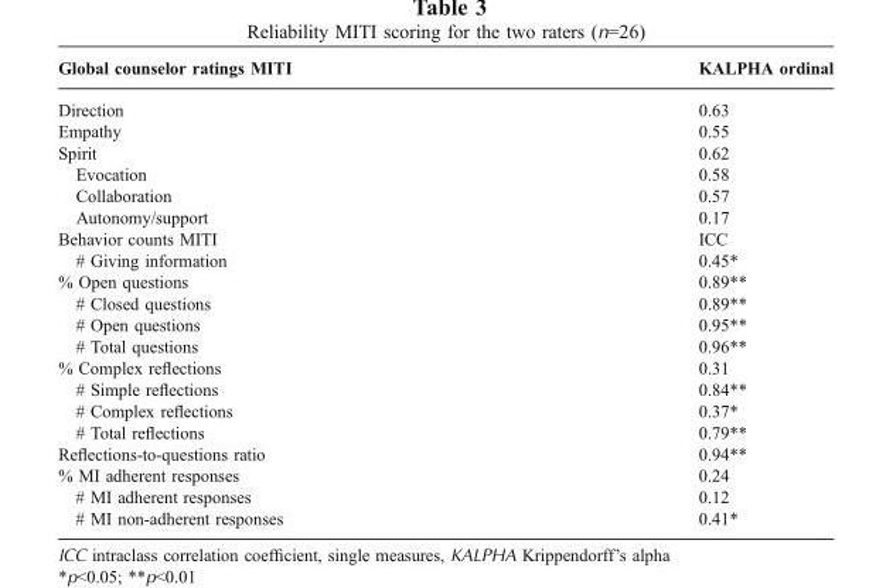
<table><thead><tr><td>Global counselor ratings MITI</td><td>KALPHA ordinal</td></tr></thead><tbody><tr><td>Direction</td><td>0.63</td></tr><tr><td>Empathy</td><td>0.55</td></tr><tr><td>Spirit</td><td>0.62</td></tr><tr><td>Evocation</td><td>0.58</td></tr><tr><td>Collaboration</td><td>0.57</td></tr><tr><td>Autonomy/support</td><td>0.17</td></tr><tr><td>Behavior counts MITI</td><td>ICC</td></tr><tr><td># Giving information</td><td>0.45*</td></tr><tr><td>% Open questions</td><td>0.89**</td></tr><tr><td># Closed questions</td><td>0.89**</td></tr><tr><td># Open questions</td><td>0.95**</td></tr><tr><td># Total questions</td><td>0.96**</td></tr><tr><td>% Complex reflections</td><td>0.31</td></tr><tr><td># Simple reflections</td><td>0.84**</td></tr><tr><td># Complex reflections</td><td>0.37*</td></tr><tr><td># Total reflections</td><td>0.79**</td></tr><tr><td>Reflections-to-questions ratio</td><td>0.94**</td></tr><tr><td>% MI adherent responses</td><td>0.24</td></tr><tr><td># MI adherent responses</td><td>0.12</td></tr><tr><td># MI non-adherent responses</td><td>0.41*</td></tr></tbody></table>